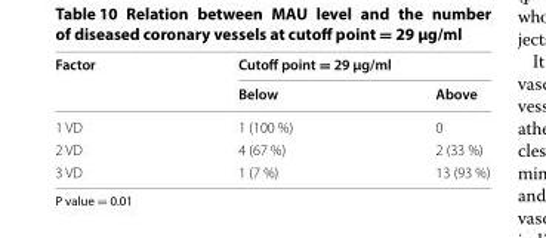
<table><thead><tr><td rowspan="2">Factor</td><td colspan="2">Cutoff point = 29 µg/ml</td></tr><tr><td>Below</td><td>Above</td></tr></thead><tbody><tr><td>1 VD</td><td>1 (100 %)</td><td>0</td></tr><tr><td>2 VD</td><td>4 (67 %)</td><td>2 (33 %)</td></tr><tr><td>3 VD</td><td>1 (7 %)</td><td>13 (93 %)</td></tr></tbody></table>